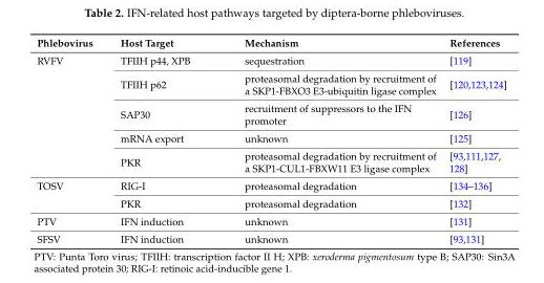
<table><thead><tr><td>Phlebovirus</td><td>Host Target</td><td>Mechanism</td><td>References</td></tr></thead><tbody><tr><td rowspan="5">RVFV</td><td>TFIIH p44, XPB</td><td>sequestration</td><td>[119]</td></tr><tr><td>TFIIH p62</td><td>proteasomal degradation by recruitment of a SKP1-FBXO3 E3-ubiquitin ligase complex</td><td>[120,123,124]</td></tr><tr><td>SAP30</td><td>recruitment of suppressors to the IFN promoter</td><td>[126]</td></tr><tr><td>mRNA export</td><td>unknown</td><td>[125]</td></tr><tr><td>PKR</td><td>proteasomal degradation by recruitment of a SKP1-CUL1-FBXW11 E3 ligase complex</td><td>[93,111,127, 128]</td></tr><tr><td rowspan="2">TOSV</td><td>RIG-I</td><td>proteasomal degradation</td><td>[134–136]</td></tr><tr><td>PKR</td><td>proteasomal degradation</td><td>[132]</td></tr><tr><td>PTV</td><td>IFN induction</td><td>unknown</td><td>[131]</td></tr><tr><td>SFSV</td><td>IFN induction</td><td>unknown</td><td>[93,131]</td></tr></tbody></table>